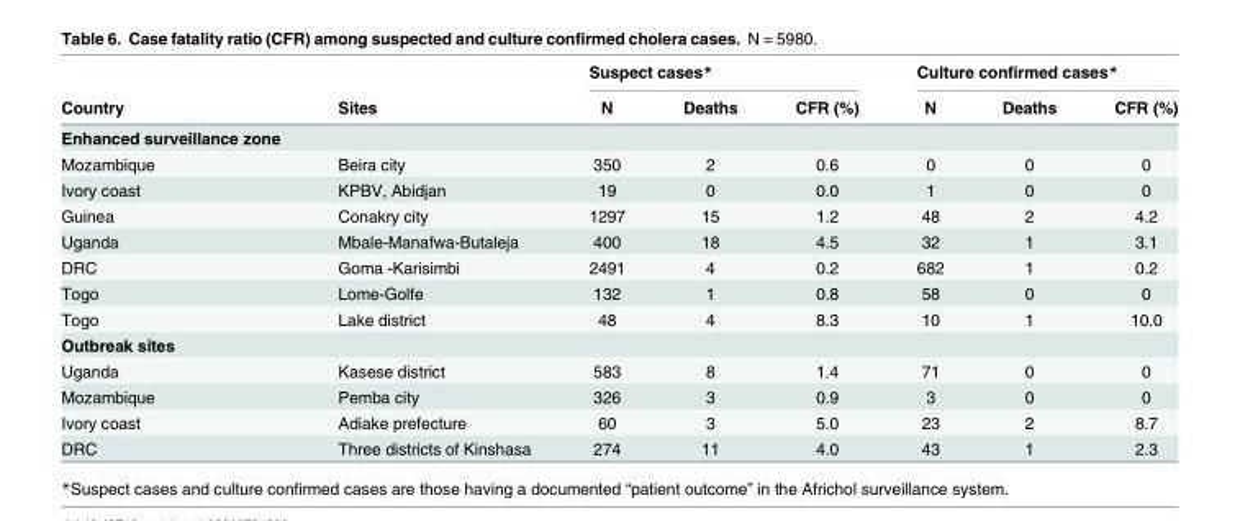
<table><thead><tr><td rowspan="2">Country</td><td rowspan="2">Sites</td><td colspan="3">Suspect cases*</td><td colspan="3">Culture confirmed cases*</td></tr><tr><td>N</td><td>Deaths</td><td>CFR (%)</td><td>N</td><td>Deaths</td><td>CFR (%)</td></tr></thead><tbody><tr><td colspan="8">Enhanced surveillance zone</td></tr><tr><td>Mozambique</td><td>Beira city</td><td>350</td><td>2</td><td>0.6</td><td>0</td><td>0</td><td>0</td></tr><tr><td>Ivory coast</td><td>KPBV, Abidjan</td><td>19</td><td>0</td><td>0.0</td><td>1</td><td>0</td><td>0</td></tr><tr><td>Guinea</td><td>Conakry city</td><td>1297</td><td>15</td><td>1.2</td><td>48</td><td>2</td><td>4.2</td></tr><tr><td>Uganda</td><td>Mbale-Manafwa-Butaleja</td><td>400</td><td>18</td><td>4.5</td><td>32</td><td>1</td><td>3.1</td></tr><tr><td>DRC</td><td>Goma -Karisimbi</td><td>2491</td><td>4</td><td>0.2</td><td>682</td><td>1</td><td>0.2</td></tr><tr><td>Togo</td><td>Lome-Golfe</td><td>132</td><td>1</td><td>0.8</td><td>58</td><td>0</td><td>0</td></tr><tr><td>Togo</td><td>Lake district</td><td>48</td><td>4</td><td>8.3</td><td>10</td><td>1</td><td>10.0</td></tr><tr><td colspan="8">Outbreak sites</td></tr><tr><td>Uganda</td><td>Kasese district</td><td>583</td><td>8</td><td>1.4</td><td>71</td><td>0</td><td>0</td></tr><tr><td>Mozambique</td><td>Pemba city</td><td>326</td><td>3</td><td>0.9</td><td>3</td><td>0</td><td>0</td></tr><tr><td>Ivory coast</td><td>Adiake prefecture</td><td>60</td><td>3</td><td>5.0</td><td>23</td><td>2</td><td>8.7</td></tr><tr><td>DRC</td><td>Three districts of Kinshasa</td><td>274</td><td>11</td><td>4.0</td><td>43</td><td>1</td><td>2.3</td></tr></tbody></table>